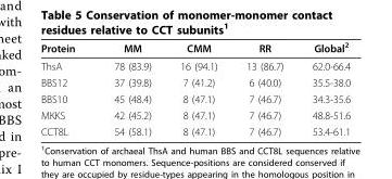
<table><thead><tr><td>Protein</td><td>MM</td><td>CMM</td><td>RR</td><td>Global<sup>2</sup></td></tr></thead><tbody><tr><td>ThsA</td><td>78 (83.9)</td><td>16 (94.1)</td><td>13 (86.7)</td><td>62.0-66.4</td></tr><tr><td>BBS12</td><td>37 (39.8)</td><td>7 (41.2)</td><td>6 (40.0)</td><td>35.5-38.0</td></tr><tr><td>BBS10</td><td>45 (48.4)</td><td>8 (47.1)</td><td>7 (46.7)</td><td>34.3-35.6</td></tr><tr><td>MKKS</td><td>42 (45.2)</td><td>8 (47.1)</td><td>7 (46.7)</td><td>48.8-51.6</td></tr><tr><td>CCT8L</td><td>54 (58.1)</td><td>8 (47.1)</td><td>7 (46.7)</td><td>53.4-61.1</td></tr></tbody></table>